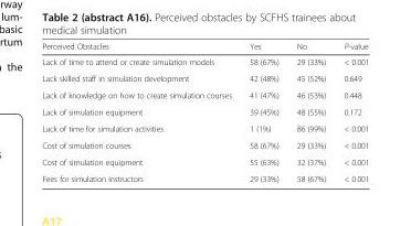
<table><thead><tr><td>Perceived Obstacles</td><td>Yes</td><td>No</td><td>P-value</td></tr></thead><tbody><tr><td>Lack of time to attend or create simulation models</td><td>58 (67%)</td><td>29 (33%)</td><td>&lt; 0.001</td></tr><tr><td>Lack skilled staff in simulation development</td><td>42 (48%)</td><td>45 (52%)</td><td>0.649</td></tr><tr><td>Lack of knowledge on how to create simulation courses</td><td>41 (47%)</td><td>46 (53%)</td><td>0.448</td></tr><tr><td>Lack of simulation equipment</td><td>39 (45%)</td><td>48 (55%)</td><td>0.172</td></tr><tr><td>Lack of time for simulation activities</td><td>1 (1%)</td><td>86 (99%)</td><td>&lt; 0.001</td></tr><tr><td>Cost of simulation courses</td><td>58 (67%)</td><td>29 (33%)</td><td>&lt; 0.001</td></tr><tr><td>Cost of simulation equipment</td><td>55 (63%)</td><td>32 (37%)</td><td>&lt; 0.001</td></tr><tr><td>Fees for simulation instructors</td><td>29 (33%)</td><td>58 (67%)</td><td>&lt; 0.001</td></tr></tbody></table>